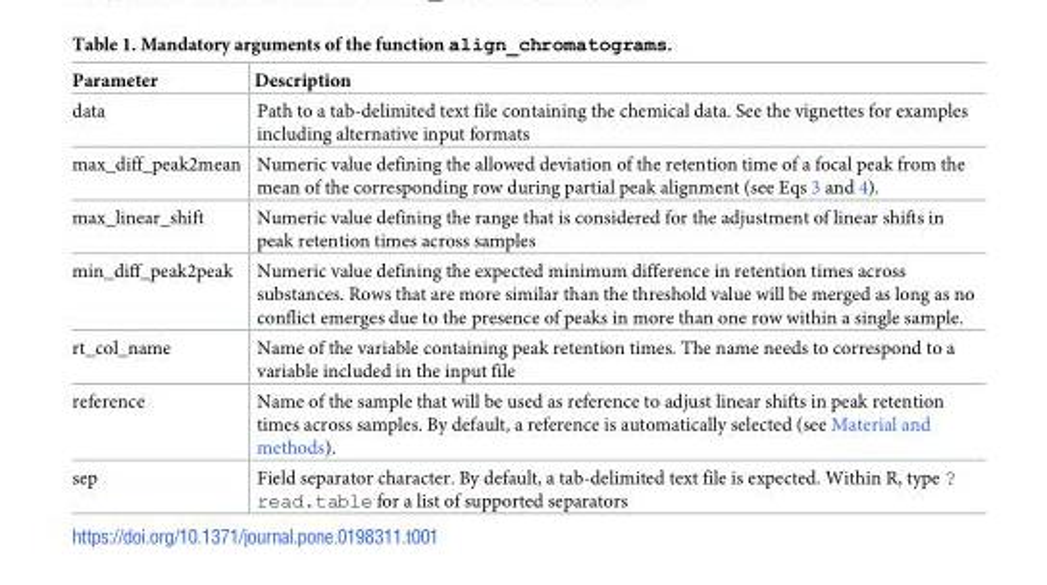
<table><thead><tr><td>Parameter</td><td>Description</td></tr></thead><tbody><tr><td>data</td><td>Path to a tab-delimited text file containing the chemical data. See the vignettes for examples including alternative input formats</td></tr><tr><td>max_diff_peak2mean</td><td>Numeric value defining the allowed deviation of the retention time of a focal peak from the mean of the corresponding row during partial peak alignment (see Eqs 3 and 4).</td></tr><tr><td>max_linear_shift</td><td>Numeric value defining the range that is considered for the adjustment of linear shifts in peak retention times across samples</td></tr><tr><td>min_diff_peak2peak</td><td>Numeric value defining the expected minimum difference in retention times across substances. Rows that are more similar than the threshold value will be merged as long as no conflict emerges due to the presence of peaks in more than one row within a single sample.</td></tr><tr><td>rt_col_name</td><td>Name of the variable containing peak retention times. The name needs to correspond to a variable included in the input file</td></tr><tr><td>reference</td><td>Name of the sample that will be used as reference to adjust linear shifts in peak retention times across samples. By default, a reference is automatically selected (see Material and methods).</td></tr><tr><td>sep</td><td>Field separator character. By default, a tab-delimited text file is expected. Within R, type ? read.table for a list of supported separators</td></tr></tbody></table>